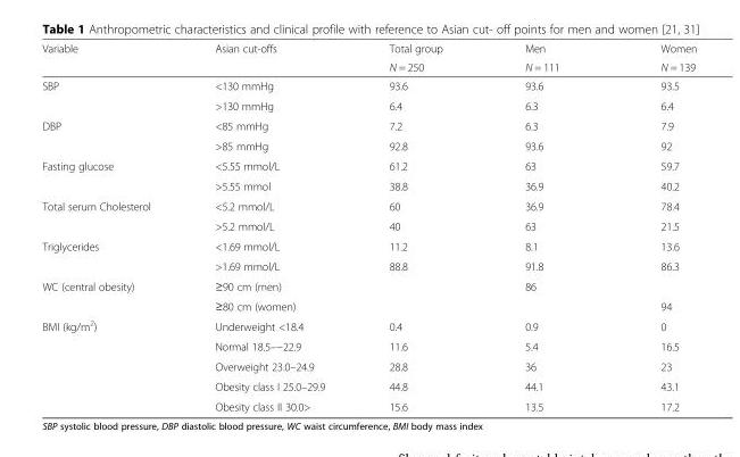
<table><thead><tr><td rowspan="2">Variable</td><td rowspan="2">Asian cut-offs</td><td rowspan="2">Total group N = 250</td><td rowspan="2">Men N = 111</td><td rowspan="2">Women N = 139</td></tr><tr></tr></thead><tbody><tr><td rowspan="2">SBP</td><td>&lt;130 mmHg</td><td>93.6</td><td>93.6</td><td>93.5</td></tr><tr><td>&gt;130 mmHg</td><td>6.4</td><td>6.3</td><td>6.4</td></tr><tr><td rowspan="2">DBP</td><td>&lt;85 mmHg</td><td>7.2</td><td>6.3</td><td>7.9</td></tr><tr><td>&gt;85 mmHg</td><td>92.8</td><td>93.6</td><td>92</td></tr><tr><td rowspan="2">Fasting glucose</td><td>&lt;5.55 mmol/L</td><td>61.2</td><td>63</td><td>59.7</td></tr><tr><td>&gt;5.55 mmol</td><td>38.8</td><td>36.9</td><td>40.2</td></tr><tr><td rowspan="2">Total serum Cholesterol</td><td>&lt;5.2 mmol/L</td><td>60</td><td>36.9</td><td>78.4</td></tr><tr><td>&gt;5.2 mmol/L</td><td>40</td><td>63</td><td>21.5</td></tr><tr><td rowspan="2">Triglycerides</td><td>&lt;1.69 mmol/L</td><td>11.2</td><td>8.1</td><td>13.6</td></tr><tr><td>&gt;1.69 mmol/L</td><td>88.8</td><td>91.8</td><td>86.3</td></tr><tr><td rowspan="2">WC (central obesity)</td><td>≥90 cm (men)</td><td></td><td>86</td><td></td></tr><tr><td>≥80 cm (women)</td><td></td><td></td><td>94</td></tr><tr><td rowspan="5">BMI (kg/m<sup>2</sup>)</td><td>Underweight &lt;18.4</td><td>0.4</td><td>0.9</td><td>0</td></tr><tr><td>Normal 18.5–−22.9</td><td>11.6</td><td>5.4</td><td>16.5</td></tr><tr><td>Overweight 23.0–24.9</td><td>28.8</td><td>36</td><td>23</td></tr><tr><td>Obesity class I 25.0–29.9</td><td>44.8</td><td>44.1</td><td>43.1</td></tr><tr><td>Obesity class II 30.0&gt;</td><td>15.6</td><td>13.5</td><td>17.2</td></tr></tbody></table>